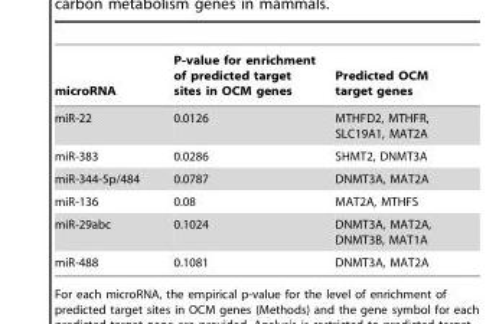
<table><thead><tr><td>microRNA</td><td>P-value for enrichment of predicted target sites in OCM genes</td><td>Predicted OCM target genes</td></tr></thead><tbody><tr><td>miR-22</td><td>0.0126</td><td>MTHFD2, MTHFR, SLC19A1, MAT2A</td></tr><tr><td>miR-383</td><td>0.0286</td><td>SHMT2, DNMT3A</td></tr><tr><td>miR-344-5p/484</td><td>0.0787</td><td>DNMT3A, MAT2A</td></tr><tr><td>miR-136</td><td>0.08</td><td>MAT2A, MTHFS</td></tr><tr><td>miR-29abc</td><td>0.1024</td><td>DNMT3A, MAT2A, DNMT3B, MAT1A</td></tr><tr><td>miR-488</td><td>0.1081</td><td>DNMT3A, MAT2A</td></tr></tbody></table>